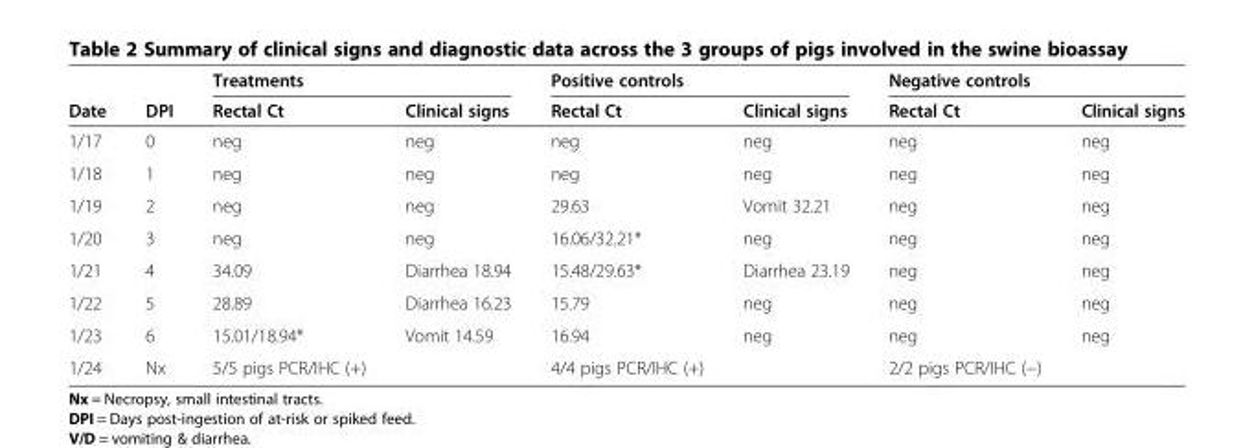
<table><thead><tr><td rowspan="2">Date</td><td rowspan="2">DPI</td><td colspan="2">Treatments</td><td colspan="2">Positive controls</td><td colspan="2">Negative controls</td></tr><tr><td>Rectal Ct</td><td>Clinical signs</td><td>Rectal Ct</td><td>Clinical signs</td><td>Rectal Ct</td><td>Clinical signs</td></tr></thead><tbody><tr><td>1/17</td><td>0</td><td>neg</td><td>neg</td><td>neg</td><td>neg</td><td>neg</td><td>neg</td></tr><tr><td>1/18</td><td>1</td><td>neg</td><td>neg</td><td>neg</td><td>neg</td><td>neg</td><td>neg</td></tr><tr><td>1/19</td><td>2</td><td>neg</td><td>neg</td><td>29.63</td><td>Vomit 32.21</td><td>neg</td><td>neg</td></tr><tr><td>1/20</td><td>3</td><td>neg</td><td>neg</td><td>16.06/32.21*</td><td>neg</td><td>neg</td><td>neg</td></tr><tr><td>1/21</td><td>4</td><td>34.09</td><td>Diarrhea 18.94</td><td>15.48/29.63*</td><td>Diarrhea 23.19</td><td>neg</td><td>neg</td></tr><tr><td>1/22</td><td>5</td><td>28.89</td><td>Diarrhea 16.23</td><td>15.79</td><td>neg</td><td>neg</td><td>neg</td></tr><tr><td>1/23</td><td>6</td><td>15.01/18.94*</td><td>Vomit 14.59</td><td>16.94</td><td>neg</td><td>neg</td><td>neg</td></tr><tr><td>1/24</td><td>Nx</td><td>5/5 pigs PCR/IHC (+)</td><td></td><td>4/4 pigs PCR/IHC (+)</td><td></td><td>2/2 pigs PCR/IHC (−)</td><td></td></tr></tbody></table>